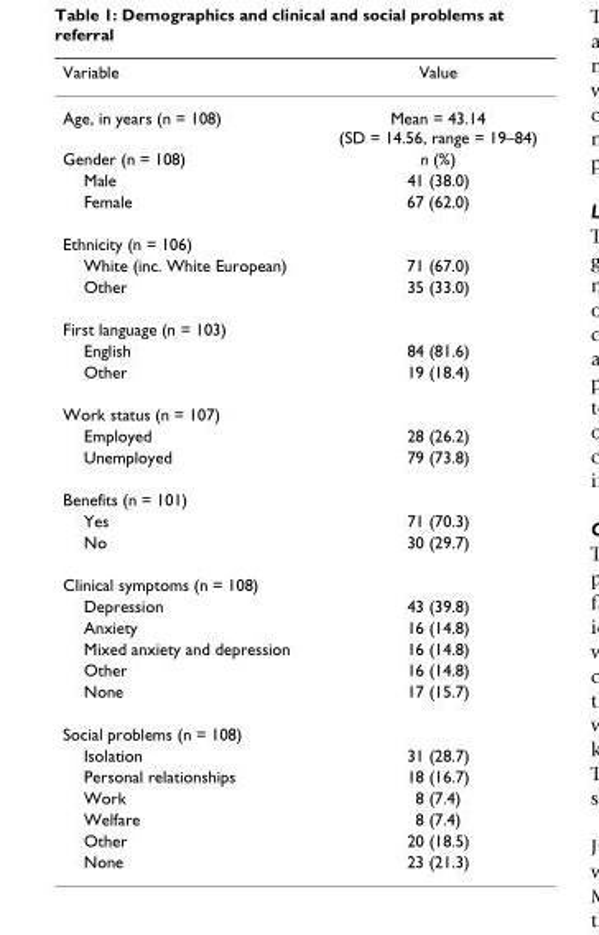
<table><thead><tr><td>Variable</td><td>Value</td></tr></thead><tbody><tr><td>Age, in years (n = 108)</td><td>Mean = 43.14 (SD = 14.56, range = 19–84)</td></tr><tr><td>Gender (n = 108)</td><td>n (%)</td></tr><tr><td>Male</td><td>41 (38.0)</td></tr><tr><td>Female</td><td>67 (62.0)</td></tr><tr><td colspan="2">Ethnicity (n = 106)</td></tr><tr><td>White (inc. White European)</td><td>71 (67.0)</td></tr><tr><td>Other</td><td>35 (33.0)</td></tr><tr><td colspan="2">First language (n = 103)</td></tr><tr><td>English</td><td>84 (81.6)</td></tr><tr><td>Other</td><td>19 (18.4)</td></tr><tr><td colspan="2">Work status (n = 107)</td></tr><tr><td>Employed</td><td>28 (26.2)</td></tr><tr><td>Unemployed</td><td>79 (73.8)</td></tr><tr><td colspan="2">Benefits (n = 101)</td></tr><tr><td>Yes</td><td>71 (70.3)</td></tr><tr><td>No</td><td>30 (29.7)</td></tr><tr><td colspan="2">Clinical symptoms (n = 108)</td></tr><tr><td>Depression</td><td>43 (39.8)</td></tr><tr><td>Anxiety</td><td>16 (14.8)</td></tr><tr><td>Mixed anxiety and depression</td><td>16 (14.8)</td></tr><tr><td>Other</td><td>16 (14.8)</td></tr><tr><td>None</td><td>17 (15.7)</td></tr><tr><td colspan="2">Social problems (n = 108)</td></tr><tr><td>Isolation</td><td>31 (28.7)</td></tr><tr><td>Personal relationships</td><td>18 (16.7)</td></tr><tr><td>Work</td><td>8 (7.4)</td></tr><tr><td>Welfare</td><td>8 (7.4)</td></tr><tr><td>Other</td><td>20 (18.5)</td></tr><tr><td>None</td><td>23 (21.3)</td></tr></tbody></table>